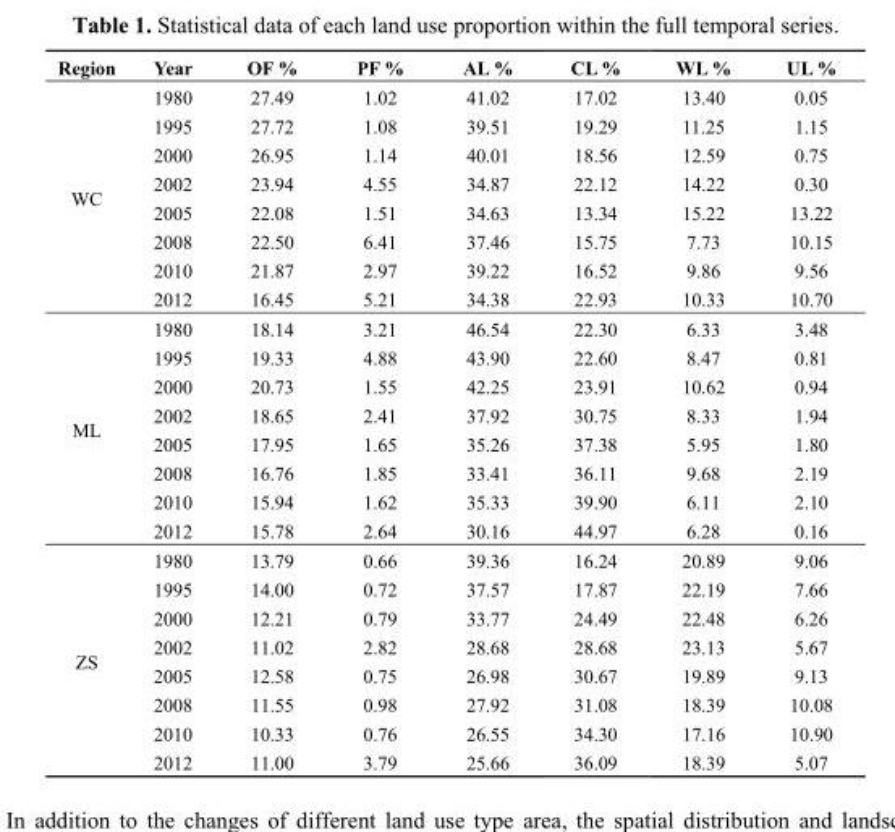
<table><thead><tr><td>Region</td><td>Year</td><td>OF %</td><td>PF %</td><td>AL %</td><td>CL %</td><td>WL %</td><td>UL %</td></tr></thead><tbody><tr><td rowspan="8">WC</td><td>1980</td><td>27.49</td><td>1.02</td><td>41.02</td><td>17.02</td><td>13.40</td><td>0.05</td></tr><tr><td>1995</td><td>27.72</td><td>1.08</td><td>39.51</td><td>19.29</td><td>11.25</td><td>1.15</td></tr><tr><td>2000</td><td>26.95</td><td>1.14</td><td>40.01</td><td>18.56</td><td>12.59</td><td>0.75</td></tr><tr><td>2002</td><td>23.94</td><td>4.55</td><td>34.87</td><td>22.12</td><td>14.22</td><td>0.30</td></tr><tr><td>2005</td><td>22.08</td><td>1.51</td><td>34.63</td><td>13.34</td><td>15.22</td><td>13.22</td></tr><tr><td>2008</td><td>22.50</td><td>6.41</td><td>37.46</td><td>15.75</td><td>7.73</td><td>10.15</td></tr><tr><td>2010</td><td>21.87</td><td>2.97</td><td>39.22</td><td>16.52</td><td>9.86</td><td>9.56</td></tr><tr><td>2012</td><td>16.45</td><td>5.21</td><td>34.38</td><td>22.93</td><td>10.33</td><td>10.70</td></tr><tr><td rowspan="8">ML</td><td>1980</td><td>18.14</td><td>3.21</td><td>46.54</td><td>22.30</td><td>6.33</td><td>3.48</td></tr><tr><td>1995</td><td>19.33</td><td>4.88</td><td>43.90</td><td>22.60</td><td>8.47</td><td>0.81</td></tr><tr><td>2000</td><td>20.73</td><td>1.55</td><td>42.25</td><td>23.91</td><td>10.62</td><td>0.94</td></tr><tr><td>2002</td><td>18.65</td><td>2.41</td><td>37.92</td><td>30.75</td><td>8.33</td><td>1.94</td></tr><tr><td>2005</td><td>17.95</td><td>1.65</td><td>35.26</td><td>37.38</td><td>5.95</td><td>1.80</td></tr><tr><td>2008</td><td>16.76</td><td>1.85</td><td>33.41</td><td>36.11</td><td>9.68</td><td>2.19</td></tr><tr><td>2010</td><td>15.94</td><td>1.62</td><td>35.33</td><td>39.90</td><td>6.11</td><td>2.10</td></tr><tr><td>2012</td><td>15.78</td><td>2.64</td><td>30.16</td><td>44.97</td><td>6.28</td><td>0.16</td></tr><tr><td rowspan="8">ZS</td><td>1980</td><td>13.79</td><td>0.66</td><td>39.36</td><td>16.24</td><td>20.89</td><td>9.06</td></tr><tr><td>1995</td><td>14.00</td><td>0.72</td><td>37.57</td><td>17.87</td><td>22.19</td><td>7.66</td></tr><tr><td>2000</td><td>12.21</td><td>0.79</td><td>33.77</td><td>24.49</td><td>22.48</td><td>6.26</td></tr><tr><td>2002</td><td>11.02</td><td>2.82</td><td>28.68</td><td>28.68</td><td>23.13</td><td>5.67</td></tr><tr><td>2005</td><td>12.58</td><td>0.75</td><td>26.98</td><td>30.67</td><td>19.89</td><td>9.13</td></tr><tr><td>2008</td><td>11.55</td><td>0.98</td><td>27.92</td><td>31.08</td><td>18.39</td><td>10.08</td></tr><tr><td>2010</td><td>10.33</td><td>0.76</td><td>26.55</td><td>34.30</td><td>17.16</td><td>10.90</td></tr><tr><td>2012</td><td>11.00</td><td>3.79</td><td>25.66</td><td>36.09</td><td>18.39</td><td>5.07</td></tr></tbody></table>